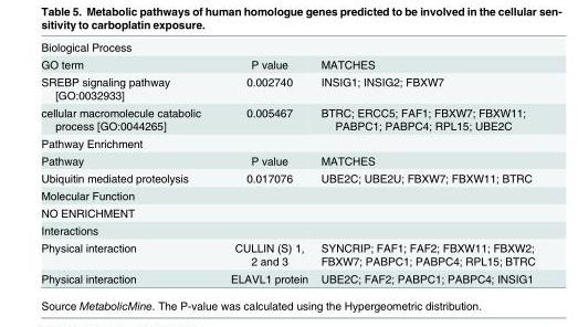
<table><tbody><tr><td colspan="3">Biological Process</td></tr><tr><td>GO term</td><td>P value</td><td>MATCHES</td></tr><tr><td>SREBP signaling pathway [GO:0032933]</td><td>0.002740</td><td>INSIG1; INSIG2; FBXW7</td></tr><tr><td>cellular macromolecule catabolic process [GO:0044265]</td><td>0.005467</td><td>BTRC; ERCC5; FAF1; FBXW7; FBXW11; PABPC1; PABPC4; RPL15; UBE2C</td></tr><tr><td colspan="3">Pathway Enrichment</td></tr><tr><td>Pathway</td><td>P value</td><td>MATCHES</td></tr><tr><td>Ubiquitin mediated proteolysis</td><td>0.017076</td><td>UBE2C; UBE2U; FBXW7; FBXW11; BTRC</td></tr><tr><td colspan="3">Molecular Function</td></tr><tr><td colspan="3">NO ENRICHMENT</td></tr><tr><td colspan="3">Interactions</td></tr><tr><td>Physical interaction</td><td>CULLIN (S) 1, 2 and 3</td><td>SYNCRIP; FAF1; FAF2; FBXW11; FBXW2; FBXW7; PABPC1; PABPC4; RPL15; BTRC</td></tr><tr><td>Physical interaction</td><td>ELAVL1 protein</td><td>UBE2C; FAF2; PABPC1; PABPC4; INSIG1</td></tr></tbody></table>